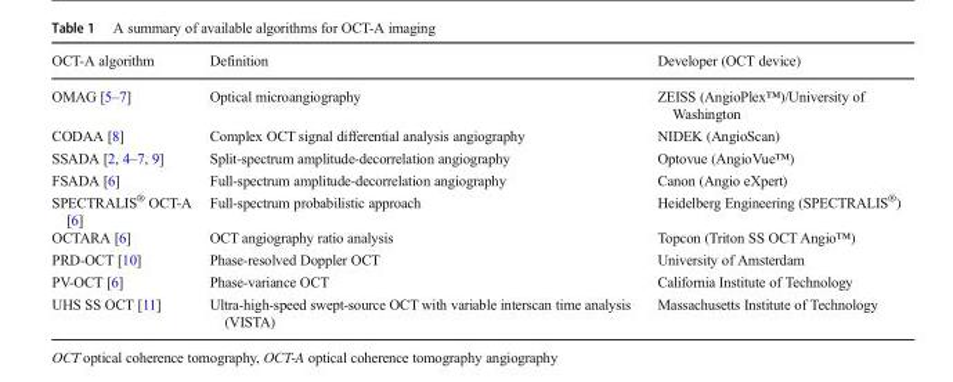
<table><thead><tr><td>OCT-A algorithm</td><td>Definition</td><td>Developer (OCT device)</td></tr></thead><tbody><tr><td>OMAG [5–7]</td><td>Optical microangiography</td><td>ZEISS (AngioPlex™)/University of Washington</td></tr><tr><td>CODAA [8]</td><td>Complex OCT signal differential analysis angiography</td><td>NIDEK (AngioScan)</td></tr><tr><td>SSADA [2, 4–7, 9]</td><td>Split-spectrum amplitude-decorrelation angiography</td><td>Optovue (AngioVue™)</td></tr><tr><td>FSADA [6]</td><td>Full-spectrum amplitude-decorrelation angiography</td><td>Canon (Angio eXpert)</td></tr><tr><td>SPECTRALIS<sup>®</sup> OCT-A [6]</td><td>Full-spectrum probabilistic approach</td><td>Heidelberg Engineering (SPECTRALIS<sup>®</sup>)</td></tr><tr><td>OCTARA [6]</td><td>OCT angiography ratio analysis</td><td>Topcon (Triton SS OCT Angio™)</td></tr><tr><td>PRD-OCT [10]</td><td>Phase-resolved Doppler OCT</td><td>University of Amsterdam</td></tr><tr><td>PV-OCT [6]</td><td>Phase-variance OCT</td><td>California Institute of Technology</td></tr><tr><td>UHS SS OCT [11]</td><td>Ultra-high-speed swept-source OCT with variable interscan time analysis (VISTA)</td><td>Massachusetts Institute of Technology</td></tr></tbody></table>